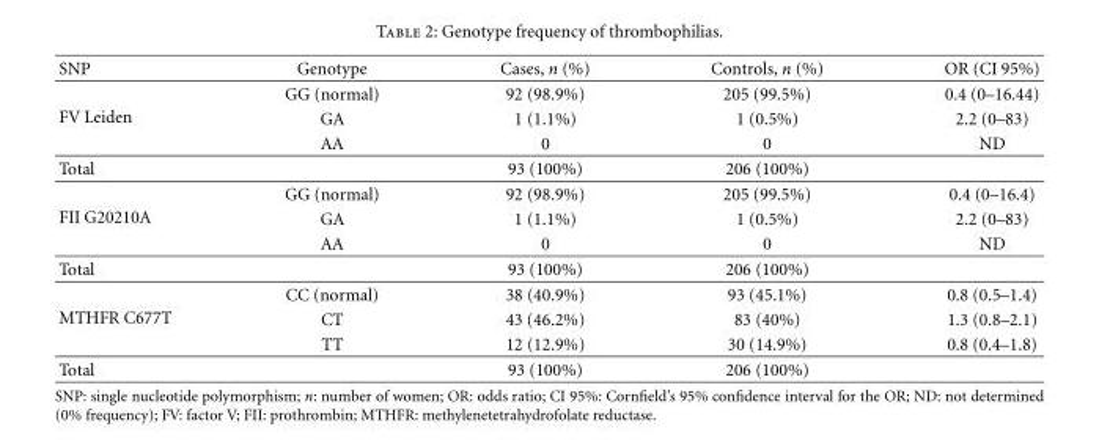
<table><thead><tr><td>SNP</td><td>Genotype</td><td>Cases, n (%)</td><td>Controls, n (%)</td><td>OR (CI 95%)</td></tr></thead><tbody><tr><td rowspan="3">FV Leiden</td><td>GG (normal)</td><td>92 (98.9%)</td><td>205 (99.5%)</td><td>0.4 (0–16.44)</td></tr><tr><td>GA</td><td>1 (1.1%)</td><td>1 (0.5%)</td><td>2.2 (0–83)</td></tr><tr><td>AA</td><td>0</td><td>0</td><td>ND</td></tr><tr><td>Total</td><td></td><td>93 (100%)</td><td>206 (100%)</td><td></td></tr><tr><td rowspan="3">FII G20210A</td><td>GG (normal)</td><td>92 (98.9%)</td><td>205 (99.5%)</td><td>0.4 (0–16.4)</td></tr><tr><td>GA</td><td>1 (1.1%)</td><td>1 (0.5%)</td><td>2.2 (0–83)</td></tr><tr><td>AA</td><td>0</td><td>0</td><td>ND</td></tr><tr><td>Total</td><td></td><td>93 (100%)</td><td>206 (100%)</td><td></td></tr><tr><td rowspan="3">MTHFR C677T</td><td>CC (normal)</td><td>38 (40.9%)</td><td>93 (45.1%)</td><td>0.8 (0.5–1.4)</td></tr><tr><td>CT</td><td>43 (46.2%)</td><td>83 (40%)</td><td>1.3 (0.8–2.1)</td></tr><tr><td>TT</td><td>12 (12.9%)</td><td>30 (14.9%)</td><td>0.8 (0.4–1.8)</td></tr><tr><td>Total</td><td></td><td>93 (100%)</td><td>206 (100%)</td><td></td></tr></tbody></table>